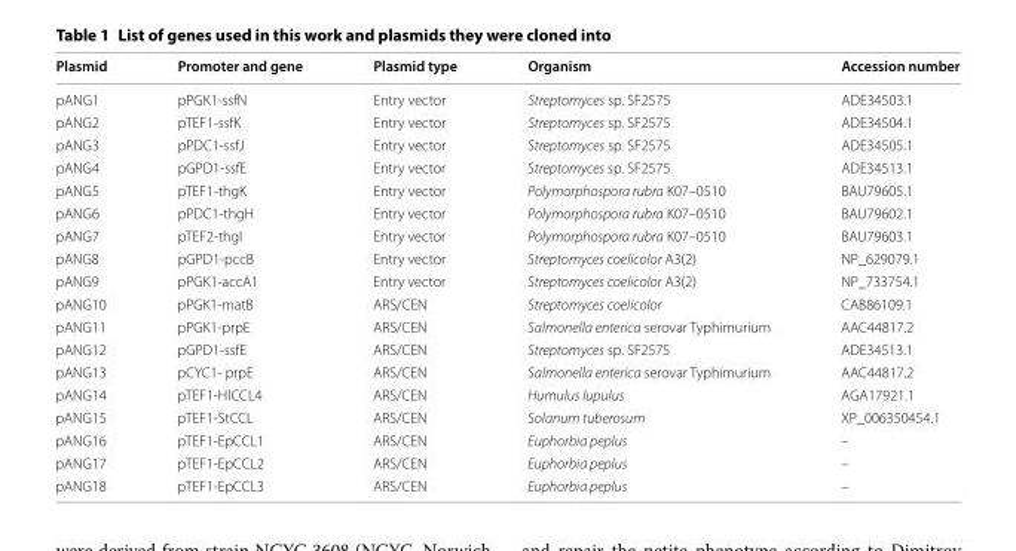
<table><thead><tr><td>Plasmid</td><td>Promoter and gene</td><td>Plasmid type</td><td>Organism</td><td>Accession number</td></tr></thead><tbody><tr><td>pANG1</td><td>pPGK1-ssfN</td><td>Entry vector</td><td>Streptomyces sp. SF2575</td><td>ADE34503.1</td></tr><tr><td>pANG2</td><td>pTEF1-ssfK</td><td>Entry vector</td><td>Streptomyces sp. SF2575</td><td>ADE34504.1</td></tr><tr><td>pANG3</td><td>pPDC1-ssfJ</td><td>Entry vector</td><td>Streptomyces sp. SF2575</td><td>ADE34505.1</td></tr><tr><td>pANG4</td><td>pGPD1-ssfE</td><td>Entry vector</td><td>Streptomyces sp. SF2575</td><td>ADE34513.1</td></tr><tr><td>pANG5</td><td>pTEF1-thgK</td><td>Entry vector</td><td>Polymorphospora rubra K07–0510</td><td>BAU79605.1</td></tr><tr><td>pANG6</td><td>pPDC1-thgH</td><td>Entry vector</td><td>Polymorphospora rubra K07–0510</td><td>BAU79602.1</td></tr><tr><td>pANG7</td><td>pTEF2-thgI</td><td>Entry vector</td><td>Polymorphospora rubra K07–0510</td><td>BAU79603.1</td></tr><tr><td>pANG8</td><td>pGPD1-pccB</td><td>Entry vector</td><td>Streptomyces coelicolor A3(2)</td><td>NP_629079.1</td></tr><tr><td>pANG9</td><td>pPGK1-accA1</td><td>Entry vector</td><td>Streptomyces coelicolor A3(2)</td><td>NP_733754.1</td></tr><tr><td>pANG10</td><td>pPGK1-matB</td><td>ARS/CEN</td><td>Streptomyces coelicolor</td><td>CAB86109.1</td></tr><tr><td>pANG11</td><td>pPGK1-prpE</td><td>ARS/CEN</td><td>Salmonella enterica serovar Typhimurium</td><td>AAC44817.2</td></tr><tr><td>pANG12</td><td>pGPD1-ssfE</td><td>ARS/CEN</td><td>Streptomyces sp. SF2575</td><td>ADE34513.1</td></tr><tr><td>pANG13</td><td>pCYC1- prpE</td><td>ARS/CEN</td><td>Salmonella enterica serovar Typhimurium</td><td>AAC44817.2</td></tr><tr><td>pANG14</td><td>pTEF1-HlCCL4</td><td>ARS/CEN</td><td>Humulus lupulus</td><td>AGA17921.1</td></tr><tr><td>pANG15</td><td>pTEF1-StCCL</td><td>ARS/CEN</td><td>Solanum tuberosum</td><td>XP_006350454.1</td></tr><tr><td>pANG16</td><td>pTEF1-EpCCL1</td><td>ARS/CEN</td><td>Euphorbia peplus</td><td>–</td></tr><tr><td>pANG17</td><td>pTEF1-EpCCL2</td><td>ARS/CEN</td><td>Euphorbia peplus</td><td>–</td></tr><tr><td>pANG18</td><td>pTEF1-EpCCL3</td><td>ARS/CEN</td><td>Euphorbia peplus</td><td>–</td></tr></tbody></table>